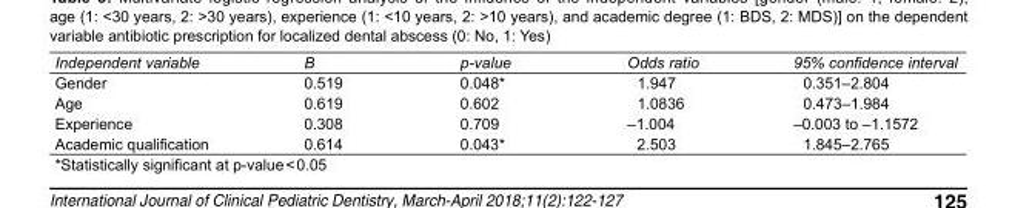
<table><tbody><tr><td>Independent variable</td><td>B</td><td>p-value</td><td>Odds ratio</td><td>95% confidence interval</td></tr><tr><td>Gender</td><td>0.519</td><td>0.048*</td><td>1.947</td><td>0.351–2.804</td></tr><tr><td>Age</td><td>0.619</td><td>0.602</td><td>1.0836</td><td>0.473–1.984</td></tr><tr><td>Experience</td><td>0.308</td><td>0.709</td><td>–1.004</td><td>–0.003 to –1.1572</td></tr><tr><td>Academic qualification</td><td>0.614</td><td>0.043*</td><td>2.503</td><td>1.845–2.765</td></tr></tbody></table>